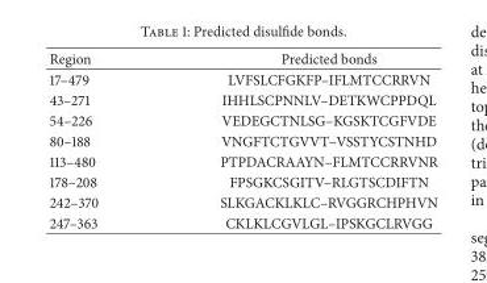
<table><thead><tr><td>Region</td><td>Predicted bonds</td></tr></thead><tbody><tr><td>17–479</td><td>LVFSLCFGKFP–IFLMTCCRRVN</td></tr><tr><td>43–271</td><td>IHHLSCPNNLV–DETKWCPPDQL</td></tr><tr><td>54–226</td><td>VEDEGCTNLSG–KGSKTCGFVDE</td></tr><tr><td>80–188</td><td>VNGFTCTGVVT–VSSTYCSTNHD</td></tr><tr><td>113–480</td><td>PTPDACRAAYN–FLMTCCRRVNR</td></tr><tr><td>178–208</td><td>FPSGKCSGITV–RLGTSCDIFTN</td></tr><tr><td>242–370</td><td>SLKGACKLKLC–RVGGRCHPHVN</td></tr><tr><td>247–363</td><td>CKLKLCGVLGL–IPSKGCLRVGG</td></tr></tbody></table>